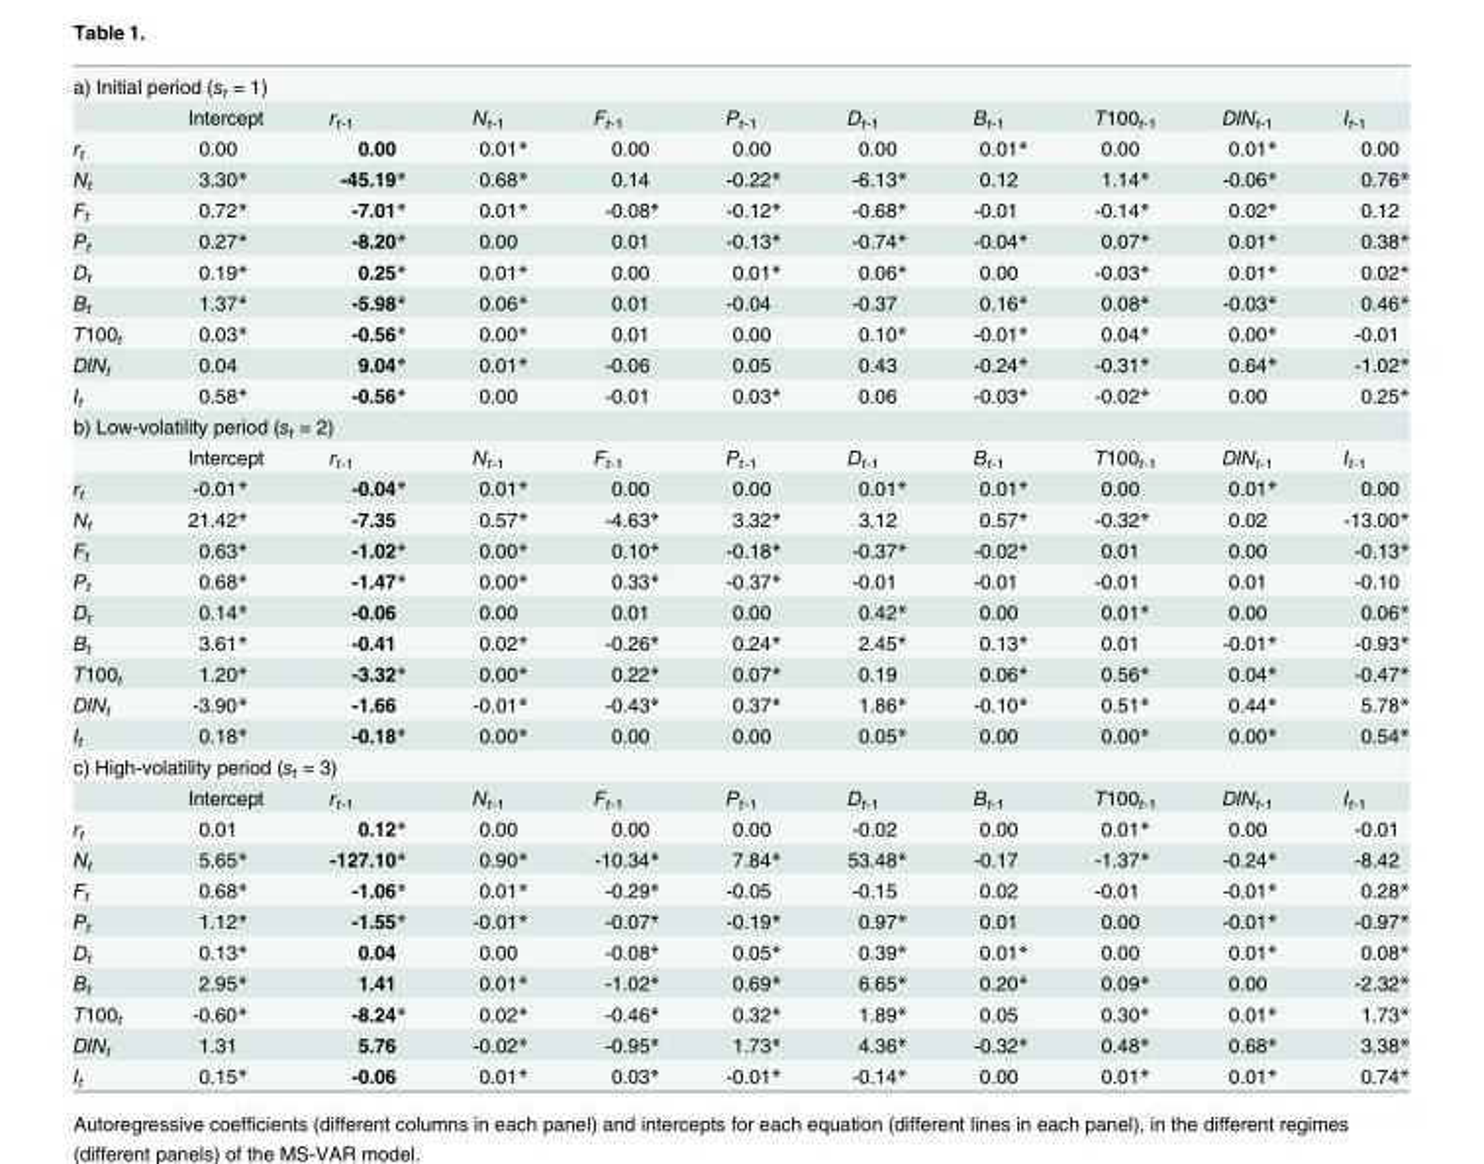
<table><tbody><tr><td colspan="11">a) Initial period (s<sub>t</sub> = 1)</td></tr><tr><td></td><td>Intercept</td><td>r<sub>t-1</sub></td><td>N<sub>t-1</sub></td><td>F<sub>t-1</sub></td><td>P<sub>t-1</sub></td><td>D<sub>t-1</sub></td><td>B<sub>t-1</sub></td><td>T100<sub>t-1</sub></td><td>DIN<sub>t-1</sub></td><td>I<sub>t-1</sub></td></tr><tr><td>r<sub>t</sub></td><td>0.00</td><td>0.00</td><td>0.01*</td><td>0.00</td><td>0.00</td><td>0.00</td><td>0.01*</td><td>0.00</td><td>0.01*</td><td>0.00</td></tr><tr><td>N<sub>t</sub></td><td>3.30*</td><td>-45.19*</td><td>0.68*</td><td>0.14</td><td>-0.22*</td><td>-6.13*</td><td>0.12</td><td>1.14*</td><td>-0.06*</td><td>0.76*</td></tr><tr><td>F<sub>t</sub></td><td>0.72*</td><td>-7.01*</td><td>0.01*</td><td>-0.08*</td><td>-0.12*</td><td>-0.68*</td><td>-0.01</td><td>-0.14*</td><td>0.02*</td><td>0.12</td></tr><tr><td>P<sub>t</sub></td><td>0.27*</td><td>-8.20*</td><td>0.00</td><td>0.01</td><td>-0.13*</td><td>-0.74*</td><td>-0.04*</td><td>0.07*</td><td>0.01*</td><td>0.38*</td></tr><tr><td>D<sub>t</sub></td><td>0.19*</td><td>0.25*</td><td>0.01*</td><td>0.00</td><td>0.01*</td><td>0.06*</td><td>0.00</td><td>-0.03*</td><td>0.01*</td><td>0.02*</td></tr><tr><td>B<sub>t</sub></td><td>1.37*</td><td>-5.98*</td><td>0.06*</td><td>0.01</td><td>-0.04</td><td>-0.37</td><td>0.16*</td><td>0.08*</td><td>-0.03*</td><td>0.46*</td></tr><tr><td>T100<sub>t</sub></td><td>0.03*</td><td>-0.56*</td><td>0.00*</td><td>0.01</td><td>0.00</td><td>0.10*</td><td>-0.01*</td><td>0.04*</td><td>0.00*</td><td>-0.01</td></tr><tr><td>DIN<sub>t</sub></td><td>0.04</td><td>9.04*</td><td>0.01*</td><td>-0.06</td><td>0.05</td><td>0.43</td><td>-0.24*</td><td>-0.31*</td><td>0.64*</td><td>-1.02*</td></tr><tr><td>I<sub>t</sub></td><td>0.58*</td><td>-0.56*</td><td>0.00</td><td>-0.01</td><td>0.03*</td><td>0.06</td><td>-0.03*</td><td>-0.02*</td><td>0.00</td><td>0.25*</td></tr><tr><td colspan="11">b) Low-volatility period (s<sub>t</sub> = 2)</td></tr><tr><td></td><td>Intercept</td><td>r<sub>t-1</sub></td><td>N<sub>t-1</sub></td><td>F<sub>t-1</sub></td><td>P<sub>t-1</sub></td><td>D<sub>t-1</sub></td><td>B<sub>t-1</sub></td><td>T100<sub>t-1</sub></td><td>DIN<sub>t-1</sub></td><td>I<sub>t-1</sub></td></tr><tr><td>r<sub>t</sub></td><td>-0.01*</td><td>-0.04*</td><td>0.01*</td><td>0.00</td><td>0.00</td><td>0.01*</td><td>0.01*</td><td>0.00</td><td>0.01*</td><td>0.00</td></tr><tr><td>N<sub>t</sub></td><td>21.42*</td><td>-7.35</td><td>0.57*</td><td>-4.63*</td><td>3.32*</td><td>3.12</td><td>0.57*</td><td>-0.32*</td><td>0.02</td><td>-13.00*</td></tr><tr><td>F<sub>t</sub></td><td>0.63*</td><td>-1.02*</td><td>0.00*</td><td>0.10*</td><td>-0.18*</td><td>-0.37*</td><td>-0.02*</td><td>0.01</td><td>0.00</td><td>-0.13*</td></tr><tr><td>P<sub>t</sub></td><td>0.68*</td><td>-1.47*</td><td>0.00*</td><td>0.33*</td><td>-0.37*</td><td>-0.01</td><td>-0.01</td><td>-0.01</td><td>0.01</td><td>-0.10</td></tr><tr><td>D<sub>t</sub></td><td>0.14*</td><td>-0.06</td><td>0.00</td><td>0.01</td><td>0.00</td><td>0.42*</td><td>0.00</td><td>0.01*</td><td>0.00</td><td>0.06*</td></tr><tr><td>B<sub>t</sub></td><td>3.61*</td><td>-0.41</td><td>0.02*</td><td>-0.26*</td><td>0.24*</td><td>2.45*</td><td>0.13*</td><td>0.01</td><td>-0.01*</td><td>-0.93*</td></tr><tr><td>T100<sub>t</sub></td><td>1.20*</td><td>-3.32*</td><td>0.00*</td><td>0.22*</td><td>0.07*</td><td>0.19</td><td>0.06*</td><td>0.56*</td><td>0.04*</td><td>-0.47*</td></tr><tr><td>DIN<sub>t</sub></td><td>-3.90*</td><td>-1.66</td><td>-0.01*</td><td>-0.43*</td><td>0.37*</td><td>1.86*</td><td>-0.10*</td><td>0.51*</td><td>0.44*</td><td>5.78*</td></tr><tr><td>I<sub>t</sub></td><td>0.18*</td><td>-0.18*</td><td>0.00*</td><td>0.00</td><td>0.00</td><td>0.05*</td><td>0.00</td><td>0.00*</td><td>0.00*</td><td>0.54*</td></tr><tr><td colspan="11">c) High-volatility period (s<sub>t</sub> = 3)</td></tr><tr><td></td><td>Intercept</td><td>r<sub>t-1</sub></td><td>N<sub>t-1</sub></td><td>F<sub>t-1</sub></td><td>P<sub>t-1</sub></td><td>D<sub>t-1</sub></td><td>B<sub>t-1</sub></td><td>T100<sub>t-1</sub></td><td>DIN<sub>t-1</sub></td><td>I<sub>t-1</sub></td></tr><tr><td>r<sub>t</sub></td><td>0.01</td><td>0.12*</td><td>0.00</td><td>0.00</td><td>0.00</td><td>-0.02</td><td>0.00</td><td>0.01*</td><td>0.00</td><td>-0.01</td></tr><tr><td>N<sub>t</sub></td><td>5.65*</td><td>-127.10*</td><td>0.90*</td><td>-10.34*</td><td>7.84*</td><td>53.48*</td><td>-0.17</td><td>-1.37*</td><td>-0.24*</td><td>-8.42</td></tr><tr><td>F<sub>t</sub></td><td>0.68*</td><td>-1.06*</td><td>0.01*</td><td>-0.29*</td><td>-0.05</td><td>-0.15</td><td>0.02</td><td>-0.01</td><td>-0.01*</td><td>0.28*</td></tr><tr><td>P<sub>t</sub></td><td>1.12*</td><td>-1.55*</td><td>-0.01*</td><td>-0.07*</td><td>-0.19*</td><td>0.97*</td><td>0.01</td><td>0.00</td><td>-0.01*</td><td>-0.97*</td></tr><tr><td>D<sub>t</sub></td><td>0.13*</td><td>0.04</td><td>0.00</td><td>-0.08*</td><td>0.05*</td><td>0.39*</td><td>0.01*</td><td>0.00</td><td>0.01*</td><td>0.08*</td></tr><tr><td>B<sub>t</sub></td><td>2.95*</td><td>1.41</td><td>0.01*</td><td>-1.02*</td><td>0.69*</td><td>6.65*</td><td>0.20*</td><td>0.09*</td><td>0.00</td><td>-2.32*</td></tr><tr><td>T100<sub>t</sub></td><td>-0.60*</td><td>-8.24*</td><td>0.02*</td><td>-0.46*</td><td>0.32*</td><td>1.89*</td><td>0.05</td><td>0.30*</td><td>0.01*</td><td>1.73*</td></tr><tr><td>DIN<sub>t</sub></td><td>1.31</td><td>5.76</td><td>-0.02*</td><td>-0.95*</td><td>1.73*</td><td>4.36*</td><td>-0.32*</td><td>0.48*</td><td>0.68*</td><td>3.38*</td></tr><tr><td>I<sub>t</sub></td><td>0.15*</td><td>-0.06</td><td>0.01*</td><td>0.03*</td><td>-0.01*</td><td>-0.14*</td><td>0.00</td><td>0.01*</td><td>0.01*</td><td>0.74*</td></tr></tbody></table>